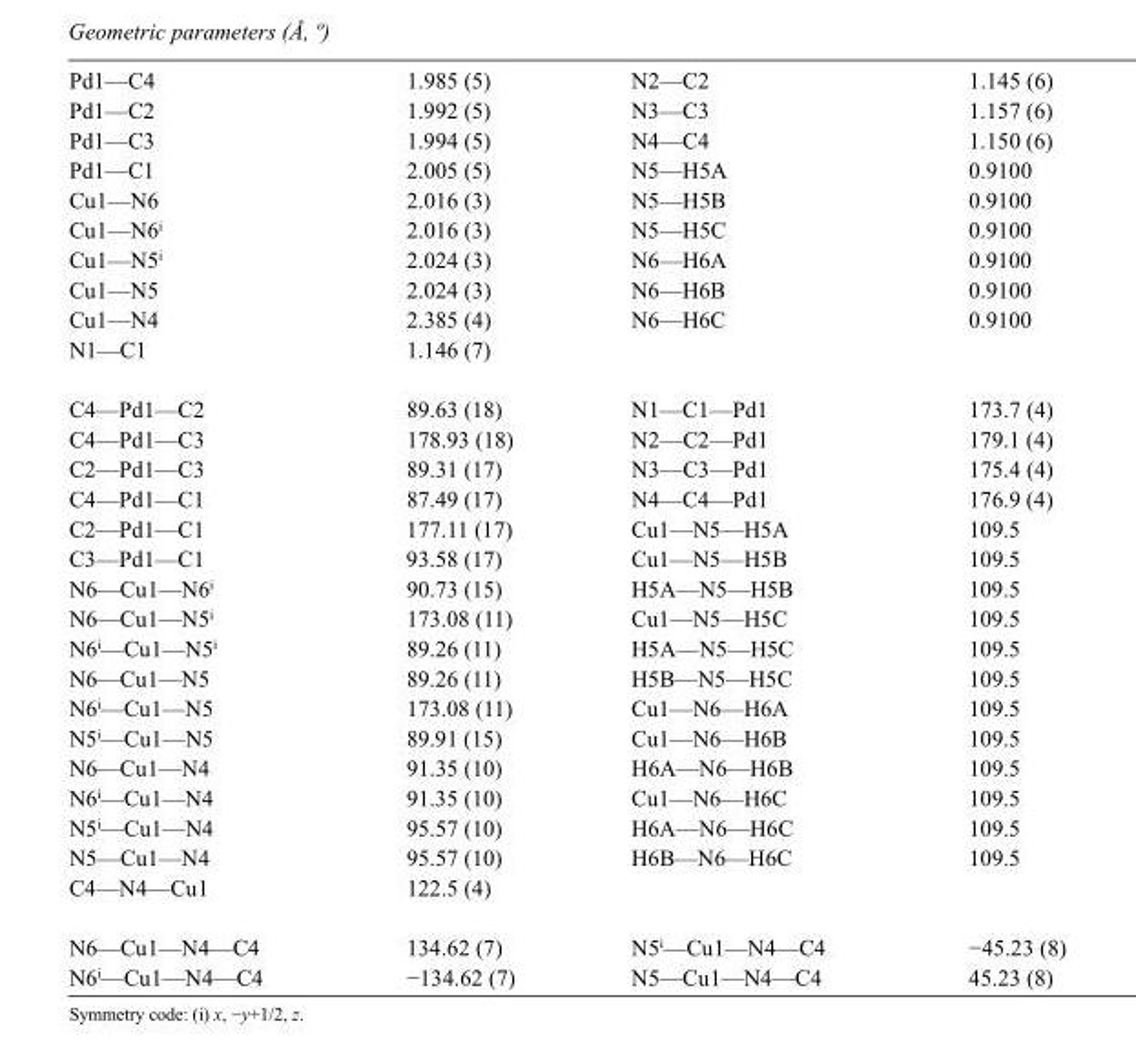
<table><tbody><tr><td>Pd1—C4</td><td>1.985 (5)</td><td>N2—C2</td><td>1.145 (6)</td></tr><tr><td>Pd1—C2</td><td>1.992 (5)</td><td>N3—C3</td><td>1.157 (6)</td></tr><tr><td>Pd1—C3</td><td>1.994 (5)</td><td>N4—C4</td><td>1.150 (6)</td></tr><tr><td>Pd1—C1</td><td>2.005 (5)</td><td>N5—H5A</td><td>0.9100</td></tr><tr><td>Cu1—N6</td><td>2.016 (3)</td><td>N5—H5B</td><td>0.9100</td></tr><tr><td>Cu1—N6<sup>i</sup></td><td>2.016 (3)</td><td>N5—H5C</td><td>0.9100</td></tr><tr><td>Cu1—N5<sup>i</sup></td><td>2.024 (3)</td><td>N6—H6A</td><td>0.9100</td></tr><tr><td>Cu1—N5</td><td>2.024 (3)</td><td>N6—H6B</td><td>0.9100</td></tr><tr><td>Cu1—N4</td><td>2.385 (4)</td><td>N6—H6C</td><td>0.9100</td></tr><tr><td>N1—C1</td><td>1.146 (7)</td><td></td><td></td></tr><tr><td>C4—Pd1—C2</td><td>89.63 (18)</td><td>N1—C1—Pd1</td><td>173.7 (4)</td></tr><tr><td>C4—Pd1—C3</td><td>178.93 (18)</td><td>N2—C2—Pd1</td><td>179.1 (4)</td></tr><tr><td>C2—Pd1—C3</td><td>89.31 (17)</td><td>N3—C3—Pd1</td><td>175.4 (4)</td></tr><tr><td>C4—Pd1—C1</td><td>87.49 (17)</td><td>N4—C4—Pd1</td><td>176.9 (4)</td></tr><tr><td>C2—Pd1—C1</td><td>177.11 (17)</td><td>Cu1—N5—H5A</td><td>109.5</td></tr><tr><td>C3—Pd1—C1</td><td>93.58 (17)</td><td>Cu1—N5—H5B</td><td>109.5</td></tr><tr><td>N6—Cu1—N6<sup>i</sup></td><td>90.73 (15)</td><td>H5A—N5—H5B</td><td>109.5</td></tr><tr><td>N6—Cu1—N5<sup>i</sup></td><td>173.08 (11)</td><td>Cu1—N5—H5C</td><td>109.5</td></tr><tr><td>N6<sup>i</sup>—Cu1—N5<sup>i</sup></td><td>89.26 (11)</td><td>H5A—N5—H5C</td><td>109.5</td></tr><tr><td>N6—Cu1—N5</td><td>89.26 (11)</td><td>H5B—N5—H5C</td><td>109.5</td></tr><tr><td>N6<sup>i</sup>—Cu1—N5</td><td>173.08 (11)</td><td>Cu1—N6—H6A</td><td>109.5</td></tr><tr><td>N5<sup>i</sup>—Cu1—N5</td><td>89.91 (15)</td><td>Cu1—N6—H6B</td><td>109.5</td></tr><tr><td>N6—Cu1—N4</td><td>91.35 (10)</td><td>H6A—N6—H6B</td><td>109.5</td></tr><tr><td>N6<sup>i</sup>—Cu1—N4</td><td>91.35 (10)</td><td>Cu1—N6—H6C</td><td>109.5</td></tr><tr><td>N5<sup>i</sup>—Cu1—N4</td><td>95.57 (10)</td><td>H6A—N6—H6C</td><td>109.5</td></tr><tr><td>N5—Cu1—N4</td><td>95.57 (10)</td><td>H6B—N6—H6C</td><td>109.5</td></tr><tr><td>C4—N4—Cu1</td><td>122.5 (4)</td><td></td><td></td></tr><tr><td>N6—Cu1—N4—C4</td><td>134.62 (7)</td><td>N5<sup>i</sup>—Cu1—N4—C4</td><td>−45.23 (8)</td></tr><tr><td>N6<sup>i</sup>—Cu1—N4—C4</td><td>−134.62 (7)</td><td>N5—Cu1—N4—C4</td><td>45.23 (8)</td></tr></tbody></table>